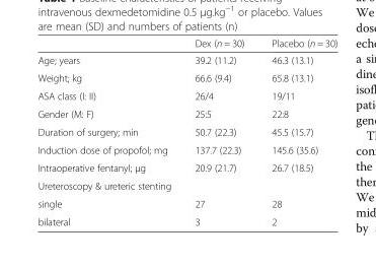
<table><thead><tr><td></td><td>Dex (n = 30)</td><td>Placebo (n = 30)</td></tr></thead><tbody><tr><td>Age; years</td><td>39.2 (11.2)</td><td>46.3 (13.1)</td></tr><tr><td>Weight; kg</td><td>66.6 (9.4)</td><td>65.8 (13.1)</td></tr><tr><td>ASA class (I: II)</td><td>26/4</td><td>19/11</td></tr><tr><td>Gender (M: F)</td><td>25:5</td><td>22:8</td></tr><tr><td>Duration of surgery; min</td><td>50.7 (22.3)</td><td>45.5 (15.7)</td></tr><tr><td>Induction dose of propofol; mg</td><td>137.7 (22.3)</td><td>145.6 (35.6)</td></tr><tr><td>Intraoperative fentanyl; μg</td><td>20.9 (21.7)</td><td>26.7 (18.5)</td></tr><tr><td colspan="3">Ureteroscopy &amp; ureteric stenting</td></tr><tr><td>single</td><td>27</td><td>28</td></tr><tr><td>bilateral</td><td>3</td><td>2</td></tr></tbody></table>